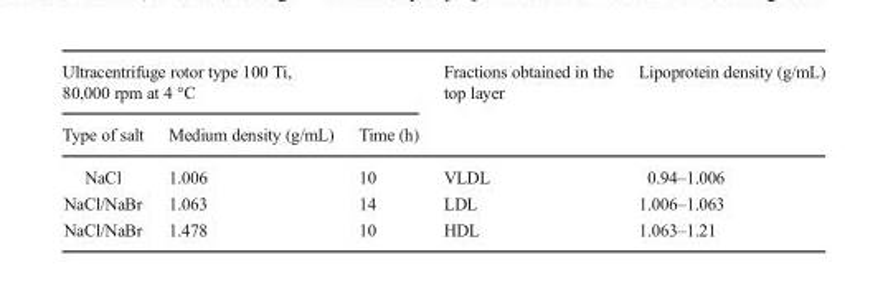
<table><thead><tr><td colspan="3">Ultracentrifuge rotor type 100 Ti, 80,000 rpm at 4 °C</td><td rowspan="2">Fractions obtained in the top layer</td><td rowspan="2">Lipoprotein density (g/mL)</td></tr><tr><td>Type of salt</td><td>Medium density (g/mL)</td><td>Time (h)</td></tr></thead><tbody><tr><td>NaCl</td><td>1.006</td><td>10</td><td>VLDL</td><td>0.94–1.006</td></tr><tr><td>NaCl/NaBr</td><td>1.063</td><td>14</td><td>LDL</td><td>1.006–1.063</td></tr><tr><td>NaCl/NaBr</td><td>1.478</td><td>10</td><td>HDL</td><td>1.063–1.21</td></tr></tbody></table>